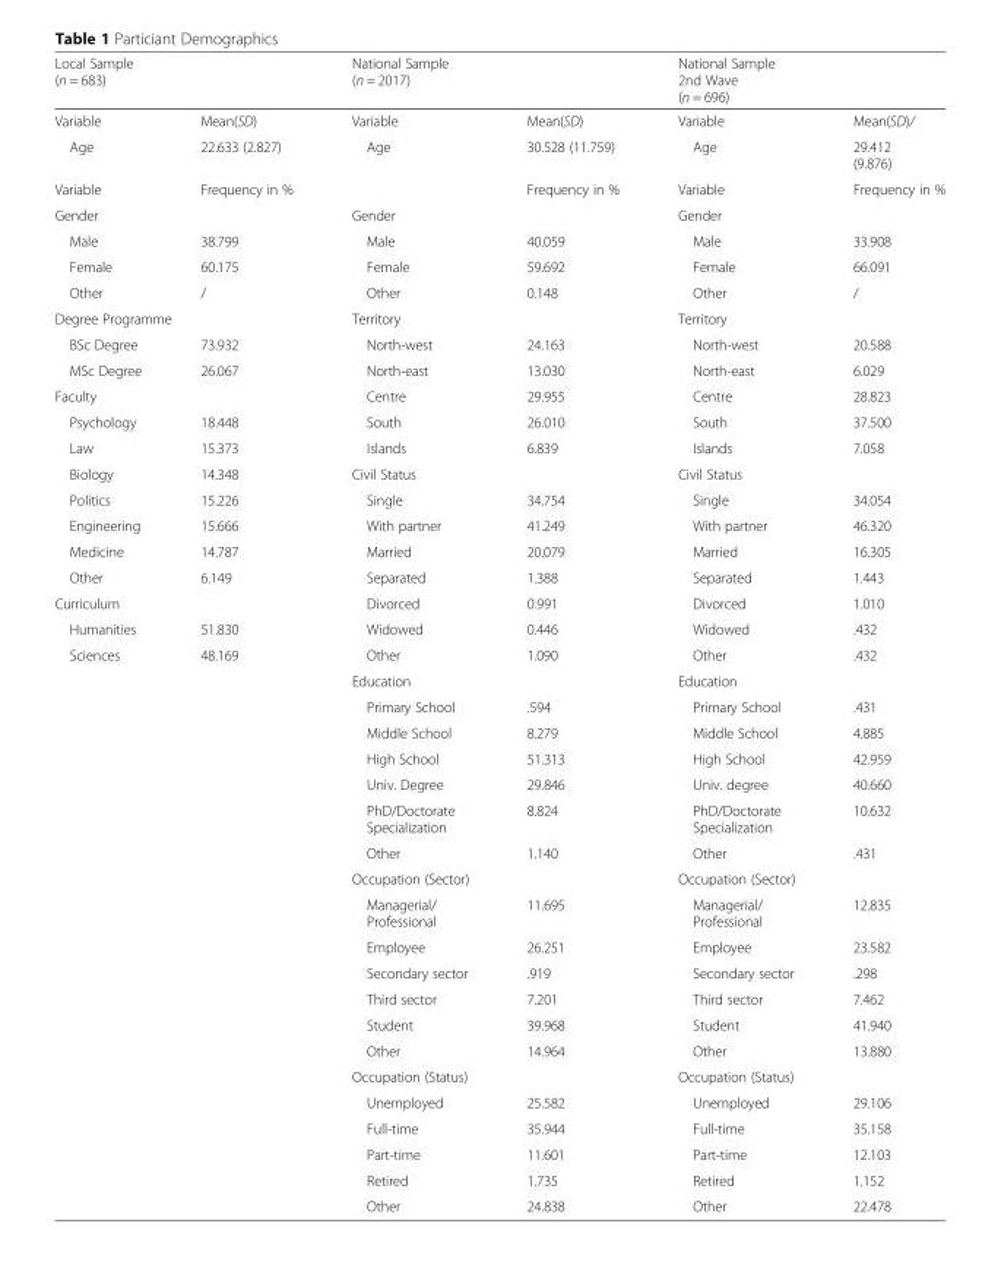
<table><thead><tr><td colspan="2">Local Sample (n = 683)</td><td colspan="2">National Sample (n = 2017)</td><td colspan="2">National Sample 2nd Wave (n = 696)</td></tr><tr><td>Variable</td><td>Mean(SD)</td><td>Variable</td><td>Mean(SD)</td><td>Variable</td><td>Mean(SD)/</td></tr></thead><tbody><tr><td>Age</td><td>22.633 (2.827)</td><td>Age</td><td>30.528 (11.759)</td><td>Age</td><td>29.412 (9.876)</td></tr><tr><td>Variable</td><td>Frequency in %</td><td></td><td>Frequency in %</td><td>Variable</td><td>Frequency in %</td></tr><tr><td colspan="2">Gender</td><td colspan="2">Gender</td><td colspan="2">Gender</td></tr><tr><td>Male</td><td>38.799</td><td>Male</td><td>40.059</td><td>Male</td><td>33.908</td></tr><tr><td>Female</td><td>60.175</td><td>Female</td><td>59.692</td><td>Female</td><td>66.091</td></tr><tr><td>Other</td><td>/</td><td>Other</td><td>0.148</td><td>Other</td><td>/</td></tr><tr><td colspan="2">Degree Programme</td><td colspan="2">Territory</td><td colspan="2">Territory</td></tr><tr><td>BSc Degree</td><td>73.932</td><td>North-west</td><td>24.163</td><td>North-west</td><td>20.588</td></tr><tr><td>MSc Degree</td><td>26.067</td><td>North-east</td><td>13.030</td><td>North-east</td><td>6.029</td></tr><tr><td colspan="2">Faculty</td><td>Centre</td><td>29.955</td><td>Centre</td><td>28.823</td></tr><tr><td>Psychology</td><td>18.448</td><td>South</td><td>26.010</td><td>South</td><td>37.500</td></tr><tr><td>Law</td><td>15.373</td><td>Islands</td><td>6.839</td><td>Islands</td><td>7.058</td></tr><tr><td>Biology</td><td>14.348</td><td colspan="2">Civil Status</td><td colspan="2">Civil Status</td></tr><tr><td>Politics</td><td>15.226</td><td>Single</td><td>34.754</td><td>Single</td><td>34.054</td></tr><tr><td>Engineering</td><td>15.666</td><td>With partner</td><td>41.249</td><td>With partner</td><td>46.320</td></tr><tr><td>Medicine</td><td>14.787</td><td>Married</td><td>20.079</td><td>Married</td><td>16.305</td></tr><tr><td>Other</td><td>6.149</td><td>Separated</td><td>1.388</td><td>Separated</td><td>1.443</td></tr><tr><td colspan="2">Curriculum</td><td>Divorced</td><td>0.991</td><td>Divorced</td><td>1.010</td></tr><tr><td>Humanities</td><td>51.830</td><td>Widowed</td><td>0.446</td><td>Widowed</td><td>.432</td></tr><tr><td rowspan="21">Sciences</td><td>48.169</td><td>Other</td><td>1.090</td><td>Other</td><td>.432</td></tr><tr><td></td><td colspan="2">Education</td><td colspan="2">Education</td></tr><tr><td></td><td>Primary School</td><td>.594</td><td>Primary School</td><td>.431</td></tr><tr><td></td><td>Middle School</td><td>8.279</td><td>Middle School</td><td>4.885</td></tr><tr><td></td><td>High School</td><td>51.313</td><td>High School</td><td>42.959</td></tr><tr><td></td><td>Univ. Degree</td><td>29.846</td><td>Univ. degree</td><td>40.660</td></tr><tr><td></td><td>PhD/Doctorate Specialization</td><td>8.824</td><td>PhD/Doctorate Specialization</td><td>10.632</td></tr><tr><td></td><td>Other</td><td>1.140</td><td>Other</td><td>.431</td></tr><tr><td></td><td colspan="2">Occupation (Sector)</td><td colspan="2">Occupation (Sector)</td></tr><tr><td></td><td>Managerial/ Professional</td><td>11.695</td><td>Managerial/ Professional</td><td>12.835</td></tr><tr><td></td><td>Employee</td><td>26.251</td><td>Employee</td><td>23.582</td></tr><tr><td></td><td>Secondary sector</td><td>.919</td><td>Secondary sector</td><td>.298</td></tr><tr><td></td><td>Third sector</td><td>7.201</td><td>Third sector</td><td>7.462</td></tr><tr><td></td><td>Student</td><td>39.968</td><td>Student</td><td>41.940</td></tr><tr><td></td><td>Other</td><td>14.964</td><td>Other</td><td>13.880</td></tr><tr><td></td><td colspan="2">Occupation (Status)</td><td colspan="2">Occupation (Status)</td></tr><tr><td></td><td>Unemployed</td><td>25.582</td><td>Unemployed</td><td>29.106</td></tr><tr><td></td><td>Full-time</td><td>35.944</td><td>Full-time</td><td>35.158</td></tr><tr><td></td><td>Part-time</td><td>11.601</td><td>Part-time</td><td>12.103</td></tr><tr><td></td><td>Retired</td><td>1.735</td><td>Retired</td><td>1.152</td></tr><tr><td></td><td>Other</td><td>24.838</td><td>Other</td><td>22.478</td></tr></tbody></table>